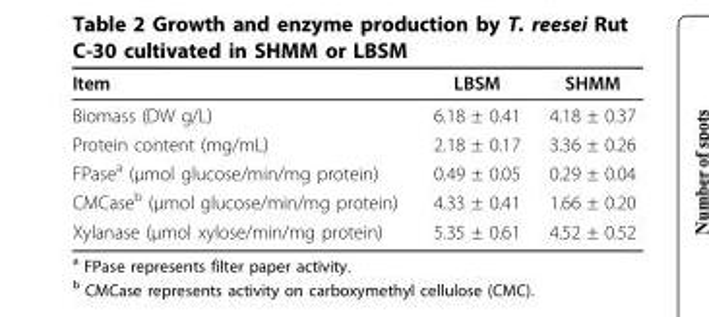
<table><thead><tr><td>Item</td><td>LBSM</td><td>SHMM</td></tr></thead><tbody><tr><td>Biomass (DW g/L)</td><td>6.18 ± 0.41</td><td>4.18 ± 0.37</td></tr><tr><td>Protein content (mg/mL)</td><td>2.18 ± 0.17</td><td>3.36 ± 0.26</td></tr><tr><td>FPase<sup>a</sup> (μmol glucose/min/mg protein)</td><td>0.49 ± 0.05</td><td>0.29 ± 0.04</td></tr><tr><td>CMCase<sup>b</sup> (μmol glucose/min/mg protein)</td><td>4.33 ± 0.41</td><td>1.66 ± 0.20</td></tr><tr><td>Xylanase (μmol xylose/min/mg protein)</td><td>5.35 ± 0.61</td><td>4.52 ± 0.52</td></tr></tbody></table>